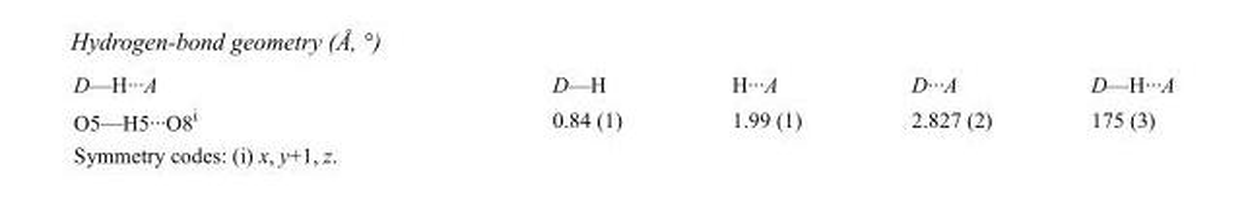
<table><tbody><tr><td>D—H···A</td><td>D—H</td><td>H···A</td><td>D···A</td><td>D—H···A</td></tr><tr><td>O5—H5···O8<sup>i</sup></td><td>0.84 (1)</td><td>1.99 (1)</td><td>2.827 (2)</td><td>175 (3)</td></tr></tbody></table>